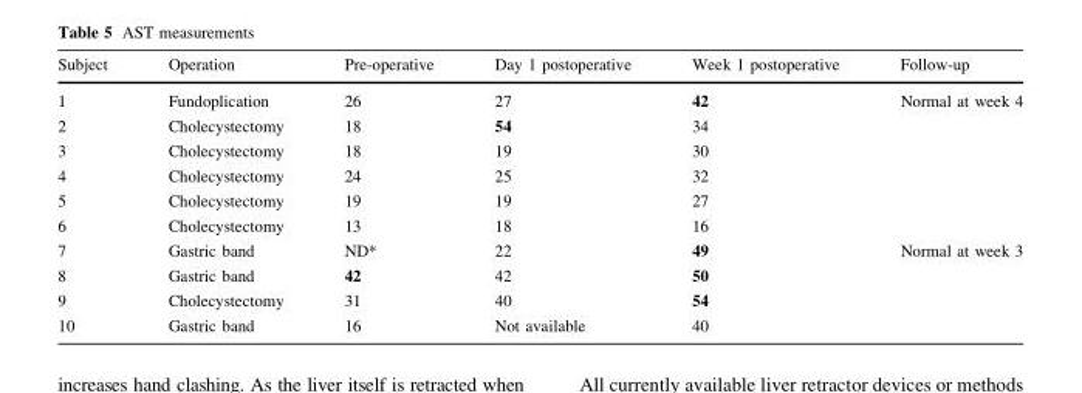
<table><thead><tr><td>Subject</td><td>Operation</td><td>Pre-operative</td><td>Day 1 postoperative</td><td>Week 1 postoperative</td><td>Follow-up</td></tr></thead><tbody><tr><td>1</td><td>Fundoplication</td><td>26</td><td>27</td><td>42</td><td rowspan="6">Normal at week 4</td></tr><tr><td>2</td><td>Cholecystectomy</td><td>18</td><td>54</td><td>34</td></tr><tr><td>3</td><td>Cholecystectomy</td><td>18</td><td>19</td><td>30</td></tr><tr><td>4</td><td>Cholecystectomy</td><td>24</td><td>25</td><td>32</td></tr><tr><td>5</td><td>Cholecystectomy</td><td>19</td><td>19</td><td>27</td></tr><tr><td>6</td><td>Cholecystectomy</td><td>13</td><td>18</td><td>16</td></tr><tr><td>7</td><td>Gastric band</td><td>ND*</td><td>22</td><td>49</td><td rowspan="4">Normal at week 3</td></tr><tr><td>8</td><td>Gastric band</td><td>42</td><td>42</td><td>50</td></tr><tr><td>9</td><td>Cholecystectomy</td><td>31</td><td>40</td><td>54</td></tr><tr><td>10</td><td>Gastric band</td><td>16</td><td>Not available</td><td>40</td></tr></tbody></table>